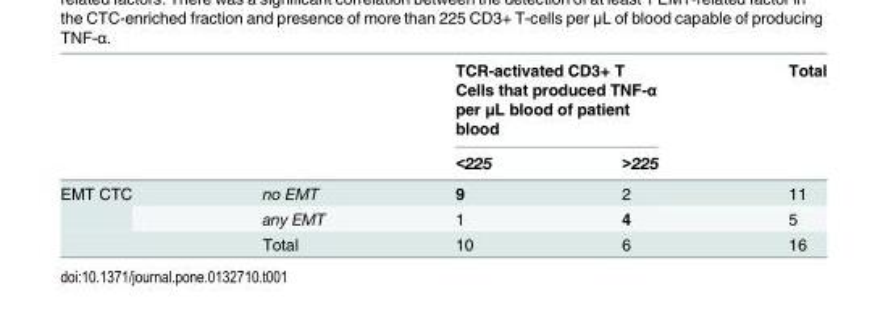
<table><thead><tr><td rowspan="2"></td><td rowspan="2"></td><td colspan="2">TCR-activated CD3+ T Cells that produced TNF-α per μL blood of patient blood</td><td rowspan="2">Total</td></tr><tr><td>&lt;225</td><td>&gt;225</td></tr></thead><tbody><tr><td rowspan="3">EMT CTC</td><td>no EMT</td><td>9</td><td>2</td><td>11</td></tr><tr><td>any EMT</td><td>1</td><td>4</td><td>5</td></tr><tr><td>Total</td><td>10</td><td>6</td><td>16</td></tr></tbody></table>